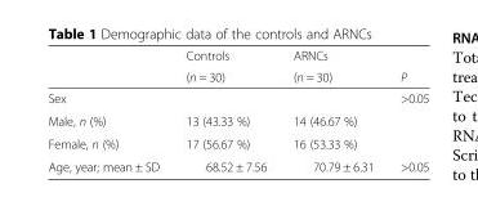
<table><thead><tr><td rowspan="2"></td><td rowspan="2">Controls (n = 30)</td><td rowspan="2">ARNCs (n = 30)</td><td rowspan="2">P</td></tr><tr></tr></thead><tbody><tr><td>Sex</td><td></td><td></td><td>&gt;0.05</td></tr><tr><td>Male, n (%)</td><td>13 (43.33 %)</td><td>14 (46.67 %)</td><td></td></tr><tr><td>Female, n (%)</td><td>17 (56.67 %)</td><td>16 (53.33 %)</td><td></td></tr><tr><td>Age, year; mean ± SD</td><td>68.52 ± 7.56</td><td>70.79 ± 6.31</td><td>&gt;0.05</td></tr></tbody></table>